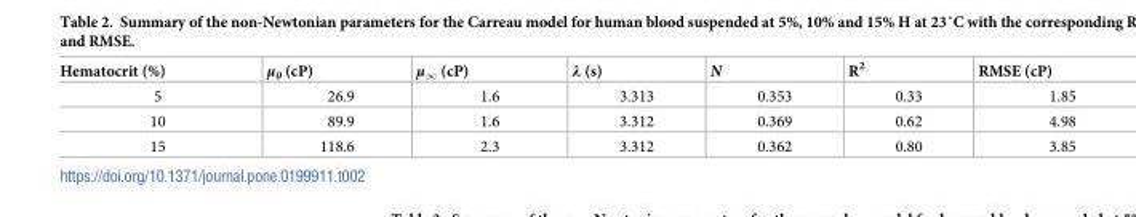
<table><thead><tr><td>Hematocrit (%)</td><td>μ<sub>0</sub> (cP)</td><td>μ<sub>∞</sub> (cP)</td><td>λ (s)</td><td>N</td><td>R<sup>2</sup></td><td>RMSE (cP)</td></tr></thead><tbody><tr><td>5</td><td>26.9</td><td>1.6</td><td>3.313</td><td>0.353</td><td>0.33</td><td>1.85</td></tr><tr><td>10</td><td>89.9</td><td>1.6</td><td>3.312</td><td>0.369</td><td>0.62</td><td>4.98</td></tr><tr><td>15</td><td>118.6</td><td>2.3</td><td>3.312</td><td>0.362</td><td>0.80</td><td>3.85</td></tr></tbody></table>